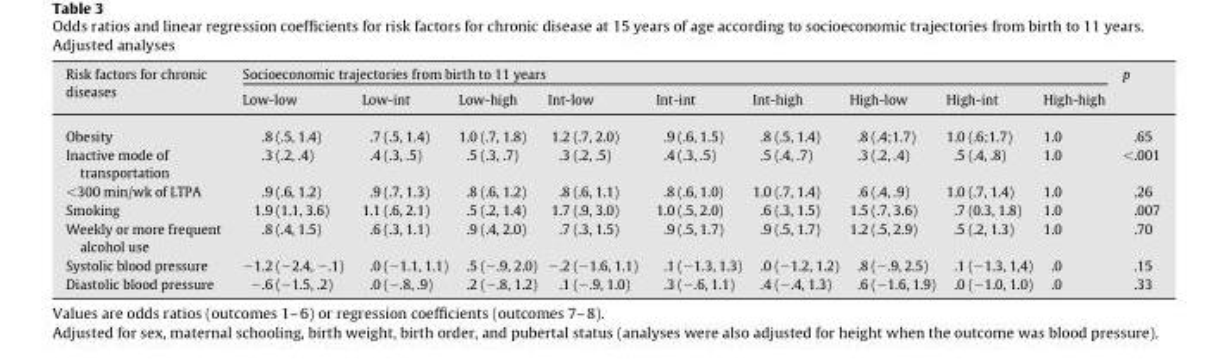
<table><thead><tr><td rowspan="2">Risk factors for chronic diseases</td><td colspan="9">Socioeconomic trajectories from birth to 11 years</td><td rowspan="2">p</td></tr><tr><td>Low-low</td><td>Low-int</td><td>Low-high</td><td>Int-low</td><td>Int-int</td><td>Int-high</td><td>High-low</td><td>High-int</td><td>High-high</td></tr></thead><tbody><tr><td>Obesity</td><td>.8 (.5, 1.4)</td><td>.7 (.5, 1.4)</td><td>1.0 (.7, 1.8)</td><td>1.2 (.7, 2.0)</td><td>.9 (.6, 1.5)</td><td>.8 (.5, 1.4)</td><td>.8 (.4;1.7)</td><td>1.0 (.6;1.7)</td><td>1.0</td><td>.65</td></tr><tr><td>Inactive mode of transportation</td><td>.3 (.2, .4)</td><td>.4 (.3, .5)</td><td>.5 (.3, .7)</td><td>.3 (.2, .5)</td><td>.4 (.3, .5)</td><td>.5 (.4, .7)</td><td>.3 (.2, .4)</td><td>.5 (.4, .8)</td><td>1.0</td><td>&lt;.001</td></tr><tr><td>&lt;300 min/wk of LTPA</td><td>.9 (.6, 1.2)</td><td>.9 (.7, 1.3)</td><td>.8 (.6, 1.2)</td><td>.8 (.6, 1.1)</td><td>.8 (.6, 1.0)</td><td>1.0 (.7, 1.4)</td><td>.6 (.4, .9)</td><td>1.0 (.7, 1.4)</td><td>1.0</td><td>.26</td></tr><tr><td>Smoking</td><td>1.9 (1.1, 3.6)</td><td>1.1 (.6, 2.1)</td><td>.5 (.2, 1.4)</td><td>1.7 (.9, 3.0)</td><td>1.0 (.5, 2.0)</td><td>.6 (.3, 1.5)</td><td>1.5 (.7, 3.6)</td><td>.7 (0.3, 1.8)</td><td>1.0</td><td>.007</td></tr><tr><td>Weekly or more frequent alcohol use</td><td>.8 (.4, 1.5)</td><td>.6 (.3, 1.1)</td><td>.9 (.4, 2.0)</td><td>.7 (.3, 1.5)</td><td>.9 (.5, 1.7)</td><td>.9 (.5, 1.7)</td><td>1.2 (.5, 2.9)</td><td>.5 (.2, 1.3)</td><td>1.0</td><td>.70</td></tr><tr><td>Systolic blood pressure</td><td>−1.2 (−2.4, −.1)</td><td>.0 (−1.1, 1.1)</td><td>.5 (−.9, 2.0)</td><td>−.2 (−1.6, 1.1)</td><td>.1 (−1.3, 1.3)</td><td>.0 (−1.2, 1.2)</td><td>.8 (−.9, 2.5)</td><td>.1 (−1.3, 1,4)</td><td>.0</td><td>.15</td></tr><tr><td>Diastolic blood pressure</td><td>−.6 (−1.5, .2)</td><td>.0 (−.8, .9)</td><td>.2 (−.8, 1.2)</td><td>.1 (−.9, 1.0)</td><td>.3 (−.6, 1.1)</td><td>.4 (−.4, 1.3)</td><td>.6 (−1.6, 1.9)</td><td>.0 (−1.0, 1.0)</td><td>.0</td><td>.33</td></tr></tbody></table>